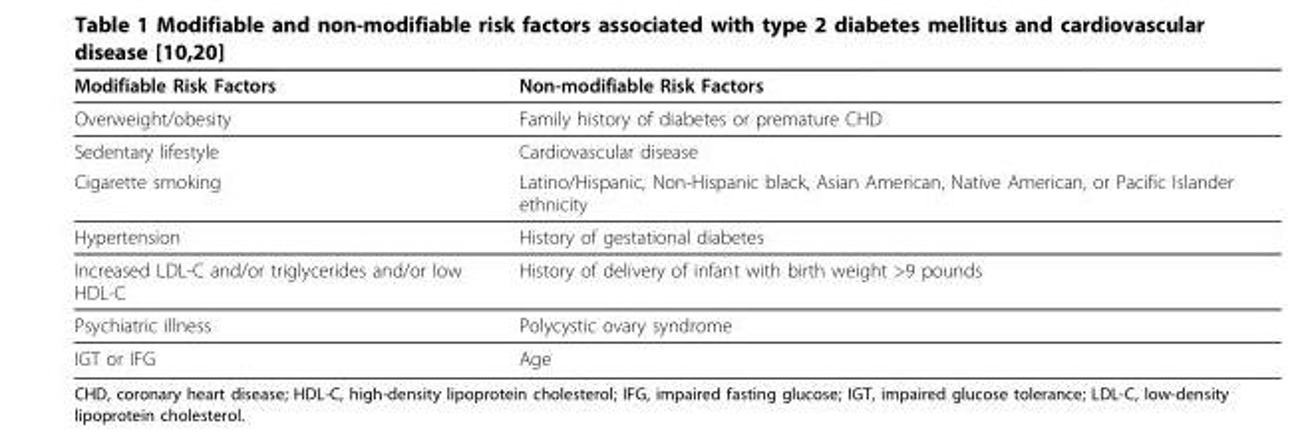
<table><thead><tr><td>Modifiable Risk Factors</td><td>Non-modifiable Risk Factors</td></tr></thead><tbody><tr><td>Overweight/obesity</td><td>Family history of diabetes or premature CHD</td></tr><tr><td>Sedentary lifestyle</td><td>Cardiovascular disease</td></tr><tr><td>Cigarette smoking</td><td>Latino/Hispanic, Non-Hispanic black, Asian American, Native American, or Pacific Islander ethnicity</td></tr><tr><td>Hypertension</td><td>History of gestational diabetes</td></tr><tr><td>Increased LDL-C and/or triglycerides and/or low HDL-C</td><td>History of delivery of infant with birth weight &gt;9 pounds</td></tr><tr><td>Psychiatric illness</td><td>Polycystic ovary syndrome</td></tr><tr><td>IGT or IFG</td><td>Age</td></tr></tbody></table>